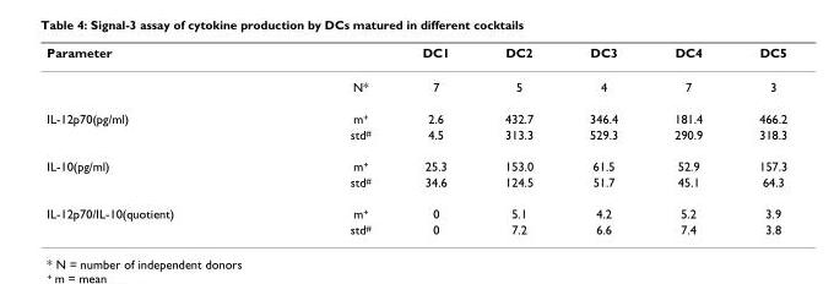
<table><thead><tr><td>Parameter</td><td></td><td>DC1</td><td>DC2</td><td>DC3</td><td>DC4</td><td>DC5</td></tr></thead><tbody><tr><td></td><td>N*</td><td>7</td><td>5</td><td>4</td><td>7</td><td>3</td></tr><tr><td rowspan="2">IL-12p70(pg/ml)</td><td>m<sup>+</sup></td><td>2.6</td><td>432.7</td><td>346.4</td><td>181.4</td><td>466.2</td></tr><tr><td>std<sup>#</sup></td><td>4.5</td><td>313.3</td><td>529.3</td><td>290.9</td><td>318.3</td></tr><tr><td rowspan="2">IL-10(pg/ml)</td><td>m<sup>+</sup></td><td>25.3</td><td>153.0</td><td>61.5</td><td>52.9</td><td>157.3</td></tr><tr><td>std<sup>#</sup></td><td>34.6</td><td>124.5</td><td>51.7</td><td>45.1</td><td>64.3</td></tr><tr><td rowspan="2">IL-12p70/IL-10(quotient)</td><td>m<sup>+</sup></td><td>0</td><td>5.1</td><td>4.2</td><td>5.2</td><td>3.9</td></tr><tr><td>std<sup>#</sup></td><td>0</td><td>7.2</td><td>6.6</td><td>7.4</td><td>3.8</td></tr></tbody></table>